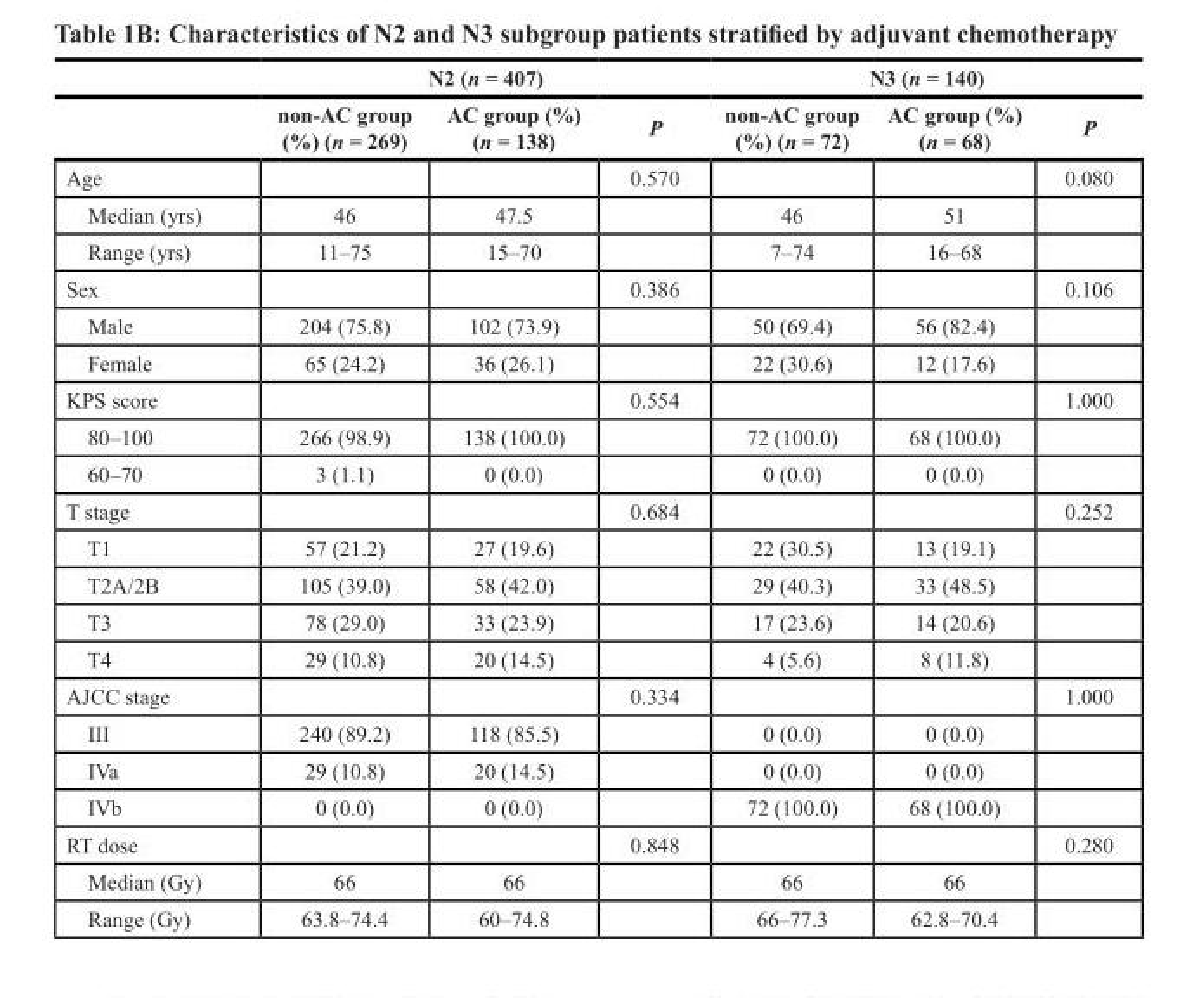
<table><thead><tr><td rowspan="2"></td><td colspan="3">N2 (n = 407)</td><td colspan="3">N3 (n = 140)</td></tr><tr><td>non-AC group (%) (n = 269)</td><td>AC group (%) (n = 138)</td><td>P</td><td>non-AC group (%) (n = 72)</td><td>AC group (%) (n = 68)</td><td>P</td></tr></thead><tbody><tr><td>Age</td><td></td><td></td><td>0.570</td><td></td><td></td><td>0.080</td></tr><tr><td>Median (yrs)</td><td>46</td><td>47.5</td><td></td><td>46</td><td>51</td><td></td></tr><tr><td>Range (yrs)</td><td>11–75</td><td>15–70</td><td></td><td>7–74</td><td>16–68</td><td></td></tr><tr><td>Sex</td><td></td><td></td><td>0.386</td><td></td><td></td><td>0.106</td></tr><tr><td>Male</td><td>204 (75.8)</td><td>102 (73.9)</td><td></td><td>50 (69.4)</td><td>56 (82.4)</td><td></td></tr><tr><td>Female</td><td>65 (24.2)</td><td>36 (26.1)</td><td></td><td>22 (30.6)</td><td>12 (17.6)</td><td></td></tr><tr><td>KPS score</td><td></td><td></td><td>0.554</td><td></td><td></td><td>1.000</td></tr><tr><td>80–100</td><td>266 (98.9)</td><td>138 (100.0)</td><td></td><td>72 (100.0)</td><td>68 (100.0)</td><td></td></tr><tr><td>60–70</td><td>3 (1.1)</td><td>0 (0.0)</td><td></td><td>0 (0.0)</td><td>0 (0.0)</td><td></td></tr><tr><td>T stage</td><td></td><td></td><td>0.684</td><td></td><td></td><td>0.252</td></tr><tr><td>T1</td><td>57 (21.2)</td><td>27 (19.6)</td><td></td><td>22 (30.5)</td><td>13 (19.1)</td><td></td></tr><tr><td>T2A/2B</td><td>105 (39.0)</td><td>58 (42.0)</td><td></td><td>29 (40.3)</td><td>33 (48.5)</td><td></td></tr><tr><td>T3</td><td>78 (29.0)</td><td>33 (23.9)</td><td></td><td>17 (23.6)</td><td>14 (20.6)</td><td></td></tr><tr><td>T4</td><td>29 (10.8)</td><td>20 (14.5)</td><td></td><td>4 (5.6)</td><td>8 (11.8)</td><td></td></tr><tr><td>AJCC stage</td><td></td><td></td><td>0.334</td><td></td><td></td><td>1.000</td></tr><tr><td>III</td><td>240 (89.2)</td><td>118 (85.5)</td><td></td><td>0 (0.0)</td><td>0 (0.0)</td><td></td></tr><tr><td>IVa</td><td>29 (10.8)</td><td>20 (14.5)</td><td></td><td>0 (0.0)</td><td>0 (0.0)</td><td></td></tr><tr><td>IVb</td><td>0 (0.0)</td><td>0 (0.0)</td><td></td><td>72 (100.0)</td><td>68 (100.0)</td><td></td></tr><tr><td>RT dose</td><td></td><td></td><td>0.848</td><td></td><td></td><td>0.280</td></tr><tr><td>Median (Gy)</td><td>66</td><td>66</td><td></td><td>66</td><td>66</td><td></td></tr><tr><td>Range (Gy)</td><td>63.8–74.4</td><td>60–74.8</td><td></td><td>66–77.3</td><td>62.8–70.4</td><td></td></tr></tbody></table>